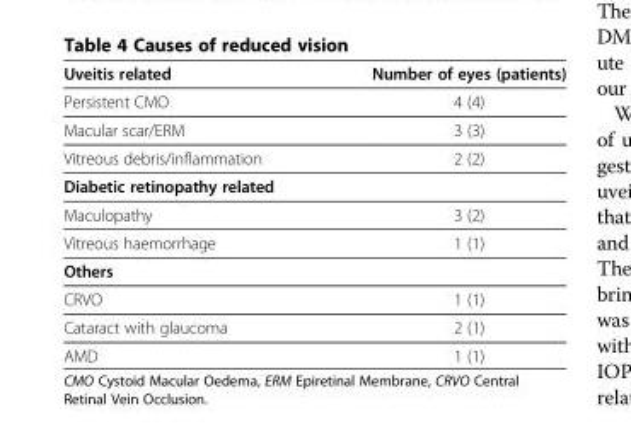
<table><thead><tr><td>Uveitis related</td><td>Number of eyes (patients)</td></tr></thead><tbody><tr><td>Persistent CMO</td><td>4 (4)</td></tr><tr><td>Macular scar/ERM</td><td>3 (3)</td></tr><tr><td>Vitreous debris/inflammation</td><td>2 (2)</td></tr><tr><td colspan="2">Diabetic retinopathy related</td></tr><tr><td>Maculopathy</td><td>3 (2)</td></tr><tr><td>Vitreous haemorrhage</td><td>1 (1)</td></tr><tr><td colspan="2">Others</td></tr><tr><td>CRVO</td><td>1 (1)</td></tr><tr><td>Cataract with glaucoma</td><td>2 (1)</td></tr><tr><td>AMD</td><td>1 (1)</td></tr></tbody></table>